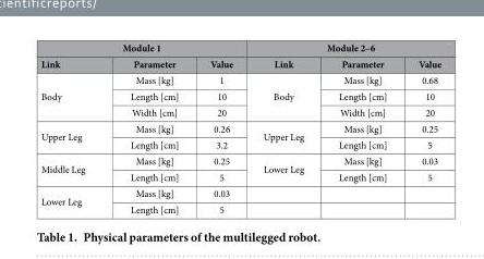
<table><thead><tr><td colspan="3">Module 1</td><td colspan="3">Module 2–6</td></tr><tr><td>Link</td><td>Parameter</td><td>Value</td><td>Link</td><td>Parameter</td><td>Value</td></tr></thead><tbody><tr><td rowspan="3">Body</td><td>Mass [kg]</td><td>1</td><td rowspan="3">Body</td><td>Mass [kg]</td><td>0.68</td></tr><tr><td>Length [cm]</td><td>10</td><td>Length [cm]</td><td>10</td></tr><tr><td>Width [cm]</td><td>20</td><td>Width [cm]</td><td>20</td></tr><tr><td rowspan="2">Upper Leg</td><td>Mass [kg]</td><td>0.26</td><td rowspan="2">Upper Leg</td><td>Mass [kg]</td><td>0.25</td></tr><tr><td>Length [cm]</td><td>3.2</td><td>Length [cm]</td><td>5</td></tr><tr><td rowspan="2">Middle Leg</td><td>Mass [kg]</td><td>0.25</td><td rowspan="2">Lower Leg</td><td>Mass [kg]</td><td>0.03</td></tr><tr><td>Length [cm]</td><td>5</td><td>Length [cm]</td><td>5</td></tr><tr><td rowspan="2">Lower Leg</td><td>Mass [kg]</td><td>0.03</td><td></td><td></td><td></td></tr><tr><td>Length [cm]</td><td>5</td><td></td><td></td><td></td></tr></tbody></table>